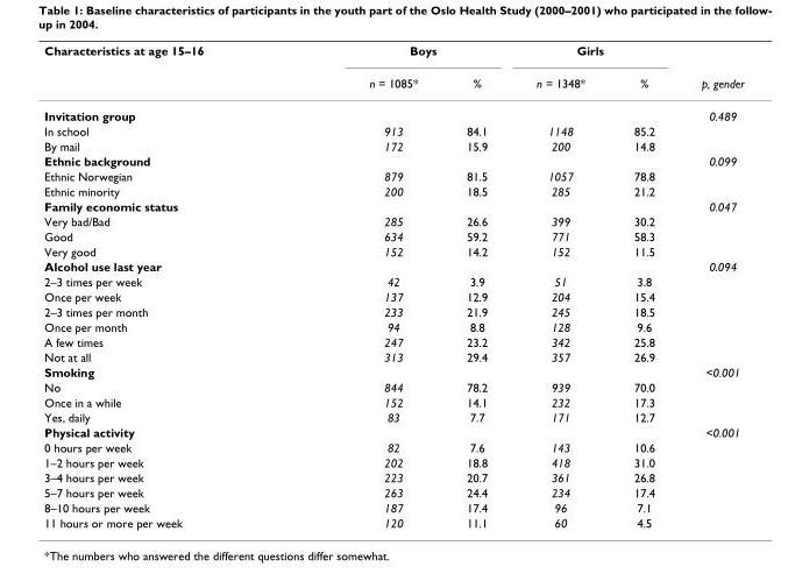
<table><thead><tr><td rowspan="2">Characteristics at age 15–16</td><td colspan="2">Boys</td><td colspan="2">Girls</td><td rowspan="2">p, gender</td></tr><tr><td>n = 1085*</td><td>%</td><td>n = 1348*</td><td>%</td></tr></thead><tbody><tr><td>Invitation group</td><td></td><td></td><td></td><td></td><td>0.489</td></tr><tr><td>In school</td><td>913</td><td>84.1</td><td>1148</td><td>85.2</td><td></td></tr><tr><td>By mail</td><td>172</td><td>15.9</td><td>200</td><td>14.8</td><td></td></tr><tr><td>Ethnic background</td><td></td><td></td><td></td><td></td><td>0.099</td></tr><tr><td>Ethnic Norwegian</td><td>879</td><td>81.5</td><td>1057</td><td>78.8</td><td></td></tr><tr><td>Ethnic minority</td><td>200</td><td>18.5</td><td>285</td><td>21.2</td><td></td></tr><tr><td>Family economic status</td><td></td><td></td><td></td><td></td><td>0.047</td></tr><tr><td>Very bad/Bad</td><td>285</td><td>26.6</td><td>399</td><td>30.2</td><td></td></tr><tr><td>Good</td><td>634</td><td>59.2</td><td>771</td><td>58.3</td><td></td></tr><tr><td>Very good</td><td>152</td><td>14.2</td><td>152</td><td>11.5</td><td></td></tr><tr><td>Alcohol use last year</td><td></td><td></td><td></td><td></td><td>0.094</td></tr><tr><td>2–3 times per week</td><td>42</td><td>3.9</td><td>51</td><td>3.8</td><td></td></tr><tr><td>Once per week</td><td>137</td><td>12.9</td><td>204</td><td>15.4</td><td></td></tr><tr><td>2–3 times per month</td><td>233</td><td>21.9</td><td>245</td><td>18.5</td><td></td></tr><tr><td>Once per month</td><td>94</td><td>8.8</td><td>128</td><td>9.6</td><td></td></tr><tr><td>A few times</td><td>247</td><td>23.2</td><td>342</td><td>25.8</td><td></td></tr><tr><td>Not at all</td><td>313</td><td>29.4</td><td>357</td><td>26.9</td><td></td></tr><tr><td>Smoking</td><td></td><td></td><td></td><td></td><td>&lt;0.001</td></tr><tr><td>No</td><td>844</td><td>78.2</td><td>939</td><td>70.0</td><td></td></tr><tr><td>Once in a while</td><td>152</td><td>14.1</td><td>232</td><td>17.3</td><td></td></tr><tr><td>Yes, daily</td><td>83</td><td>7.7</td><td>171</td><td>12.7</td><td></td></tr><tr><td>Physical activity</td><td></td><td></td><td></td><td></td><td>&lt;0.001</td></tr><tr><td>0 hours per week</td><td>82</td><td>7.6</td><td>143</td><td>10.6</td><td></td></tr><tr><td>1–2 hours per week</td><td>202</td><td>18.8</td><td>418</td><td>31.0</td><td></td></tr><tr><td>3–4 hours per week</td><td>223</td><td>20.7</td><td>361</td><td>26.8</td><td></td></tr><tr><td>5–7 hours per week</td><td>263</td><td>24.4</td><td>234</td><td>17.4</td><td></td></tr><tr><td>8–10 hours per week</td><td>187</td><td>17.4</td><td>96</td><td>7.1</td><td></td></tr><tr><td>11 hours or more per week</td><td>120</td><td>11.1</td><td>60</td><td>4.5</td><td></td></tr></tbody></table>